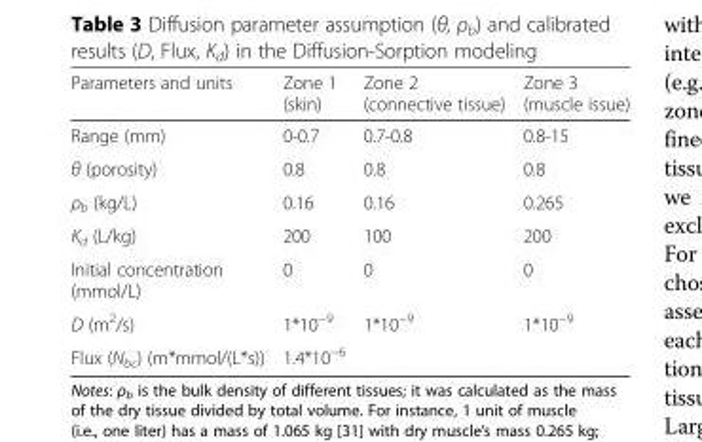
<table><thead><tr><td>Parameters and units</td><td>Zone 1 (skin)</td><td>Zone 2 (connective tissue)</td><td>Zone 3 (muscle issue)</td></tr></thead><tbody><tr><td>Range (mm)</td><td>0-0.7</td><td>0.7-0.8</td><td>0.8-15</td></tr><tr><td>θ (porosity)</td><td>0.8</td><td>0.8</td><td>0.8</td></tr><tr><td>ρ<sub>b</sub> (kg/L)</td><td>0.16</td><td>0.16</td><td>0.265</td></tr><tr><td>K<sub>d</sub> (L/kg)</td><td>200</td><td>100</td><td>200</td></tr><tr><td>Initial concentration (mmol/L)</td><td>0</td><td>0</td><td>0</td></tr><tr><td>D (m<sup>2</sup>/s)</td><td>1*10<sup>−9</sup></td><td>1*10<sup>−9</sup></td><td>1*10<sup>−9</sup></td></tr><tr><td>Flux (N<sub>bc</sub>) (m*mmol/(L*s))</td><td>1.4*10<sup>−6</sup></td><td></td><td></td></tr></tbody></table>